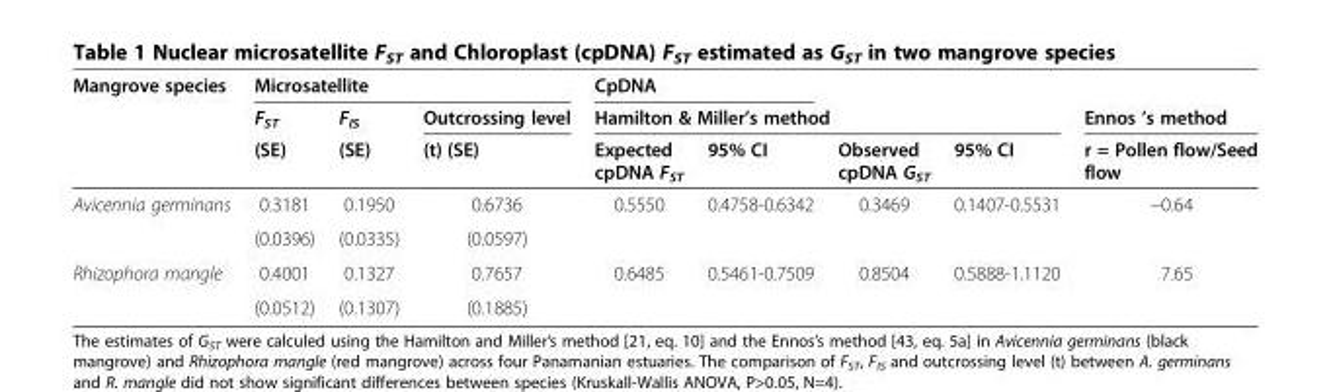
<table><thead><tr><td rowspan="3">Mangrove species</td><td colspan="2">Microsatellite</td><td rowspan="3">Outcrossing level (t) (SE)</td><td colspan="2">CpDNA</td><td></td><td></td><td rowspan="3">Ennos ’s method r = Pollen flow/Seed flow</td></tr><tr><td rowspan="2">F<sub>ST</sub> (SE)</td><td rowspan="2">F<sub>IS</sub> (SE)</td><td colspan="4">Hamilton &amp; Miller’s method</td></tr><tr><td>Expected cpDNA F<sub>ST</sub></td><td>95% CI</td><td>Observed cpDNA G<sub>ST</sub></td><td>95% CI</td></tr></thead><tbody><tr><td rowspan="2">Avicennia germinans</td><td>0.3181</td><td>0.1950</td><td>0.6736</td><td>0.5550</td><td>0.4758-0.6342</td><td>0.3469</td><td>0.1407-0.5531</td><td>−0.64</td></tr><tr><td>(0.0396)</td><td>(0.0335)</td><td>(0.0597)</td><td></td><td></td><td></td><td></td><td></td></tr><tr><td rowspan="2">Rhizophora mangle</td><td>0.4001</td><td>0.1327</td><td>0.7657</td><td>0.6485</td><td>0.5461-0.7509</td><td>0.8504</td><td>0.5888-1.1120</td><td>7.65</td></tr><tr><td>(0.0512)</td><td>(0.1307)</td><td>(0.1885)</td><td></td><td></td><td></td><td></td><td></td></tr></tbody></table>